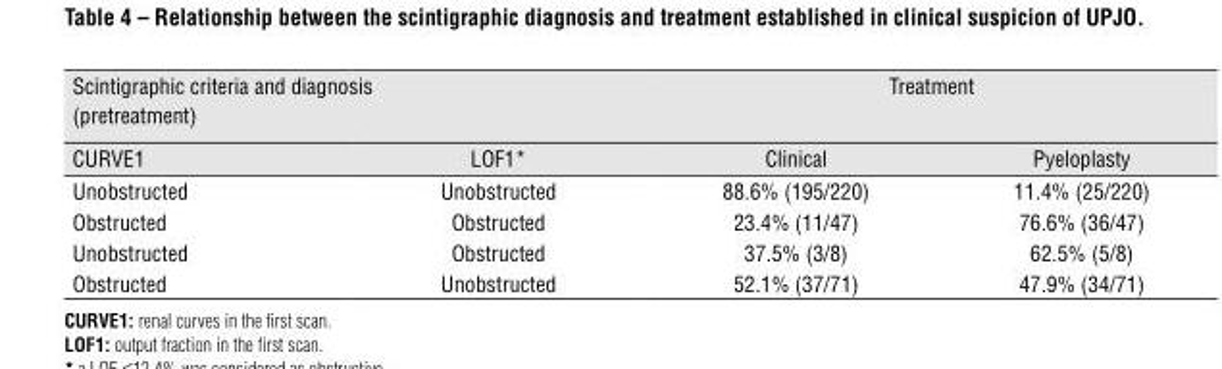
<table><thead><tr><td colspan="2">Scintigraphic criteria and diagnosis (pretreatment)</td><td colspan="2">Treatment</td></tr><tr><td>CURVE1</td><td>LOF1*</td><td>Clinical</td><td>Pyeloplasty</td></tr></thead><tbody><tr><td>Unobstructed</td><td>Unobstructed</td><td>88.6% (195/220)</td><td>11.4% (25/220)</td></tr><tr><td>Obstructed</td><td>Obstructed</td><td>23.4% (11/47)</td><td>76.6% (36/47)</td></tr><tr><td>Unobstructed</td><td>Obstructed</td><td>37.5% (3/8)</td><td>62.5% (5/8)</td></tr><tr><td>Obstructed</td><td>Unobstructed</td><td>52.1% (37/71)</td><td>47.9% (34/71)</td></tr></tbody></table>